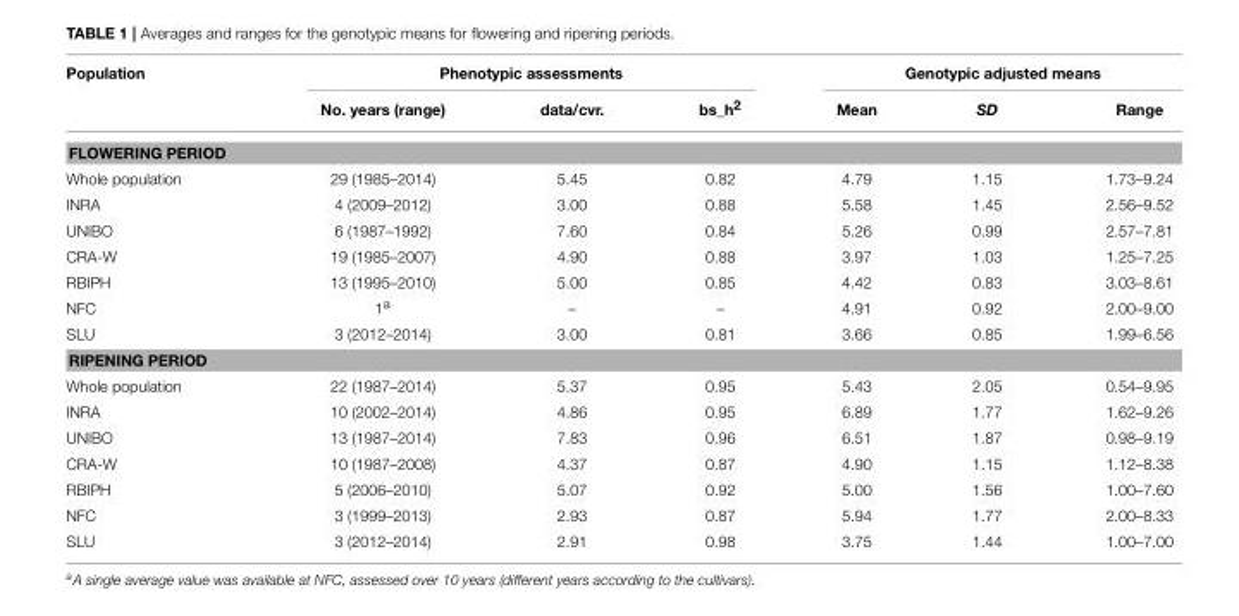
<table><thead><tr><td rowspan="2">Population</td><td colspan="3">Phenotypic assessments</td><td colspan="3">Genotypic adjusted means</td></tr><tr><td>No. years (range)</td><td>data/cvr.</td><td>bs_h<sup>2</sup></td><td>Mean</td><td>SD</td><td>Range</td></tr></thead><tbody><tr><td colspan="7">FLOWERING PERIOD</td></tr><tr><td>Whole population</td><td>29 (1985–2014)</td><td>5.45</td><td>0.82</td><td>4.79</td><td>1.15</td><td>1.73–9.24</td></tr><tr><td>INRA</td><td>4 (2009–2012)</td><td>3.00</td><td>0.88</td><td>5.58</td><td>1.45</td><td>2.56–9.52</td></tr><tr><td>UNIBO</td><td>6 (1987–1992)</td><td>7.60</td><td>0.84</td><td>5.26</td><td>0.99</td><td>2.57–7.81</td></tr><tr><td>CRA-W</td><td>19 (1985–2007)</td><td>4.90</td><td>0.88</td><td>3.97</td><td>1.03</td><td>1.25–7.25</td></tr><tr><td>RBIPH</td><td>13 (1995–2010)</td><td>5.00</td><td>0.85</td><td>4.42</td><td>0.83</td><td>3.03–8.61</td></tr><tr><td>NFC</td><td>1<sup>a</sup></td><td>–</td><td>–</td><td>4.91</td><td>0.92</td><td>2.00–9.00</td></tr><tr><td>SLU</td><td>3 (2012–2014)</td><td>3.00</td><td>0.81</td><td>3.66</td><td>0.85</td><td>1.99–6.56</td></tr><tr><td colspan="7">RIPENING PERIOD</td></tr><tr><td>Whole population</td><td>22 (1987–2014)</td><td>5.37</td><td>0.95</td><td>5.43</td><td>2.05</td><td>0.54–9.95</td></tr><tr><td>INRA</td><td>10 (2002–2014)</td><td>4.86</td><td>0.95</td><td>6.89</td><td>1.77</td><td>1.62–9.26</td></tr><tr><td>UNIBO</td><td>13 (1987–2014)</td><td>7.83</td><td>0.96</td><td>6.51</td><td>1.87</td><td>0.98–9.19</td></tr><tr><td>CRA-W</td><td>10 (1987–2008)</td><td>4.37</td><td>0.87</td><td>4.90</td><td>1.15</td><td>1.12–8.38</td></tr><tr><td>RBIPH</td><td>5 (2006–2010)</td><td>5.07</td><td>0.92</td><td>5.00</td><td>1.56</td><td>1.00–7.60</td></tr><tr><td>NFC</td><td>3 (1999–2013)</td><td>2.93</td><td>0.87</td><td>5.94</td><td>1.77</td><td>2.00–8.33</td></tr><tr><td>SLU</td><td>3 (2012–2014)</td><td>2.91</td><td>0.98</td><td>3.75</td><td>1.44</td><td>1.00–7.00</td></tr></tbody></table>